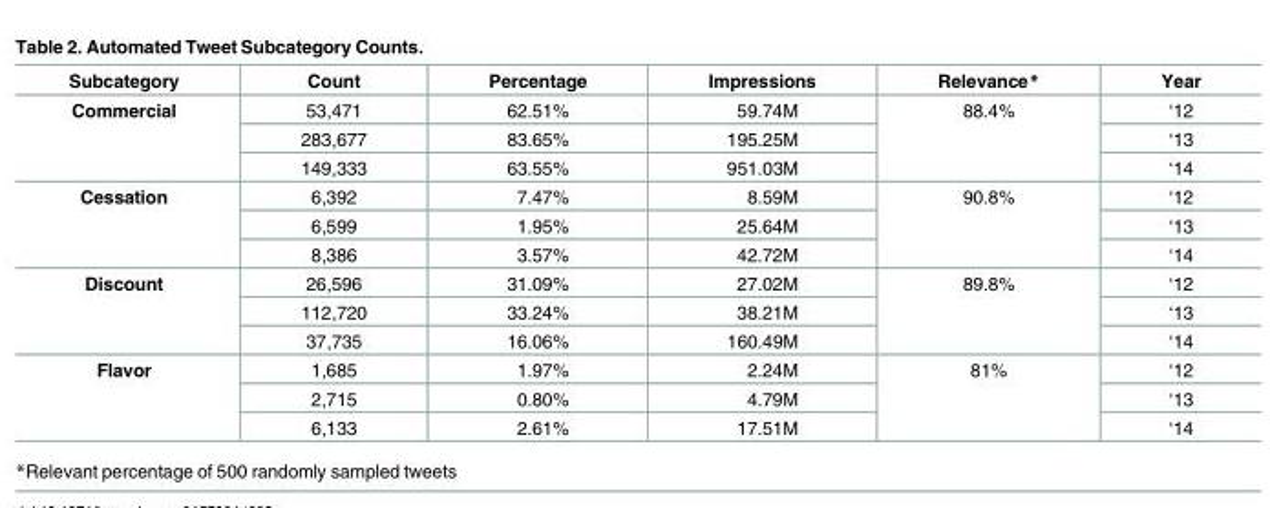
<table><thead><tr><td>Subcategory</td><td>Count</td><td>Percentage</td><td>Impressions</td><td>Relevance*</td><td>Year</td></tr></thead><tbody><tr><td rowspan="3">Commercial</td><td>53,471</td><td>62.51%</td><td>59.74M</td><td rowspan="3">88.4%</td><td>‘12</td></tr><tr><td>283,677</td><td>83.65%</td><td>195.25M</td><td>‘13</td></tr><tr><td>149,333</td><td>63.55%</td><td>951.03M</td><td>‘14</td></tr><tr><td rowspan="3">Cessation</td><td>6,392</td><td>7.47%</td><td>8.59M</td><td rowspan="3">90.8%</td><td>‘12</td></tr><tr><td>6,599</td><td>1.95%</td><td>25.64M</td><td>‘13</td></tr><tr><td>8,386</td><td>3.57%</td><td>42.72M</td><td>‘14</td></tr><tr><td rowspan="3">Discount</td><td>26,596</td><td>31.09%</td><td>27.02M</td><td rowspan="3">89.8%</td><td>‘12</td></tr><tr><td>112,720</td><td>33.24%</td><td>38.21M</td><td>‘13</td></tr><tr><td>37,735</td><td>16.06%</td><td>160.49M</td><td>‘14</td></tr><tr><td rowspan="3">Flavor</td><td>1,685</td><td>1.97%</td><td>2.24M</td><td rowspan="3">81%</td><td>‘12</td></tr><tr><td>2,715</td><td>0.80%</td><td>4.79M</td><td>‘13</td></tr><tr><td>6,133</td><td>2.61%</td><td>17.51M</td><td>‘14</td></tr></tbody></table>